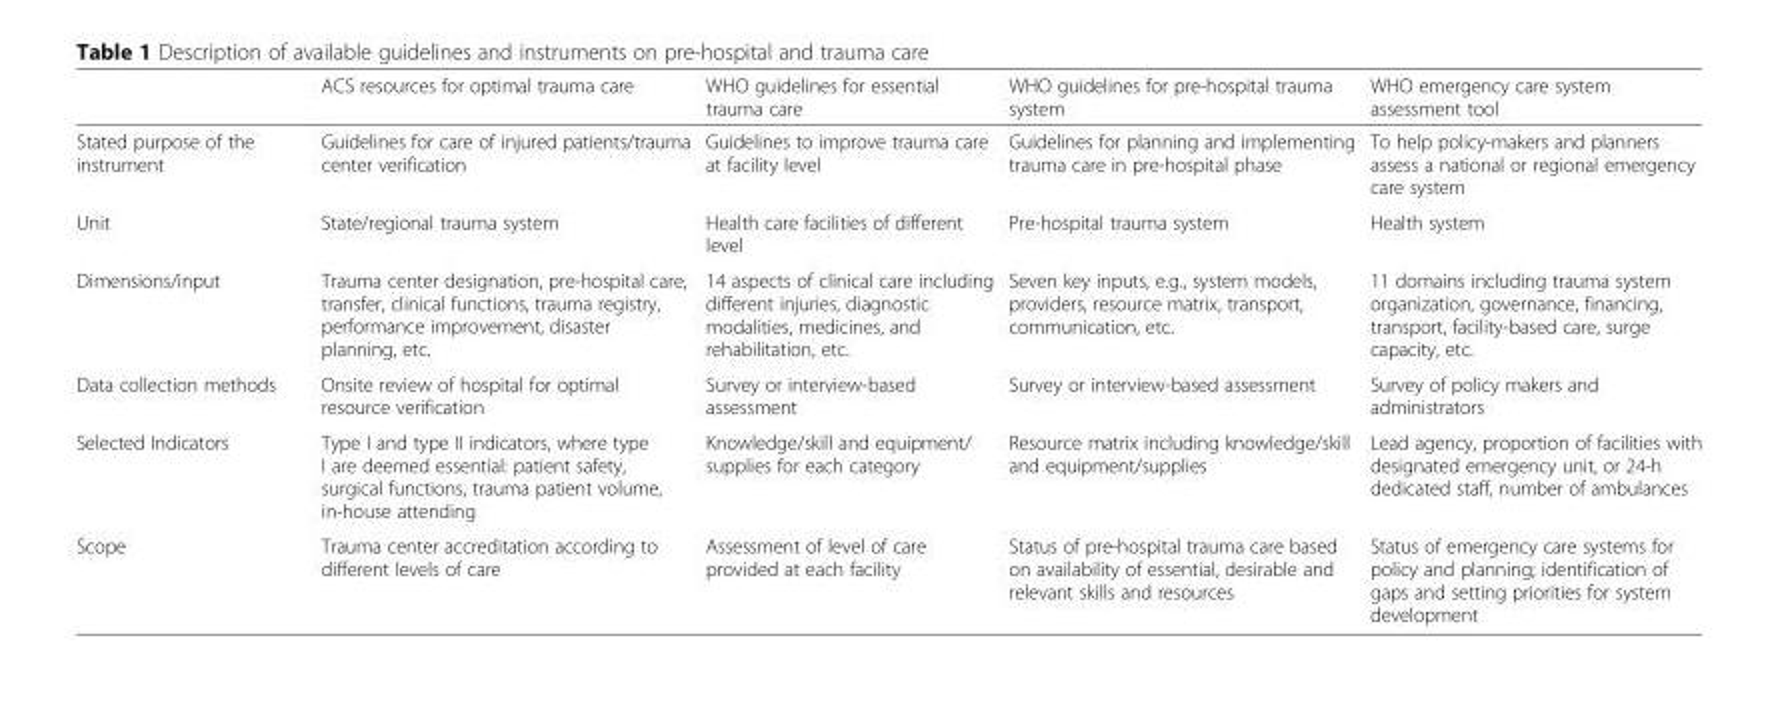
<table><thead><tr><td></td><td>ACS resources for optimal trauma care</td><td>WHO guidelines for essential trauma care</td><td>WHO guidelines for pre-hospital trauma system</td><td>WHO emergency care system assessment tool</td></tr></thead><tbody><tr><td>Stated purpose of the instrument</td><td>Guidelines for care of injured patients/trauma center verification</td><td>Guidelines to improve trauma care at facility level</td><td>Guidelines for planning and implementing trauma care in pre-hospital phase</td><td>To help policy-makers and planners assess a national or regional emergency care system</td></tr><tr><td>Unit</td><td>State/regional trauma system</td><td>Health care facilities of different level</td><td>Pre-hospital trauma system</td><td>Health system</td></tr><tr><td>Dimensions/input</td><td>Trauma center designation, pre-hospital care, transfer, clinical functions, trauma registry, performance improvement, disaster planning, etc.</td><td>14 aspects of clinical care including different injuries, diagnostic modalities, medicines, and rehabilitation, etc.</td><td>Seven key inputs, e.g., system models, providers, resource matrix, transport, communication, etc.</td><td>11 domains including trauma system organization, governance, financing, transport, facility-based care, surge capacity, etc.</td></tr><tr><td>Data collection methods</td><td>Onsite review of hospital for optimal resource verification</td><td>Survey or interview-based assessment</td><td>Survey or interview-based assessment</td><td>Survey of policy makers and administrators</td></tr><tr><td>Selected Indicators</td><td>Type I and type II indicators, where type I are deemed essential: patient safety, surgical functions, trauma patient volume, in-house attending</td><td>Knowledge/skill and equipment/ supplies for each category</td><td>Resource matrix including knowledge/skill and equipment/supplies</td><td>Lead agency, proportion of facilities with designated emergency unit, or 24-h dedicated staff, number of ambulances</td></tr><tr><td>Scope</td><td>Trauma center accreditation according to different levels of care</td><td>Assessment of level of care provided at each facility</td><td>Status of pre-hospital trauma care based on availability of essential, desirable and relevant skills and resources</td><td>Status of emergency care systems for policy and planning; identification of gaps and setting priorities for system development</td></tr></tbody></table>